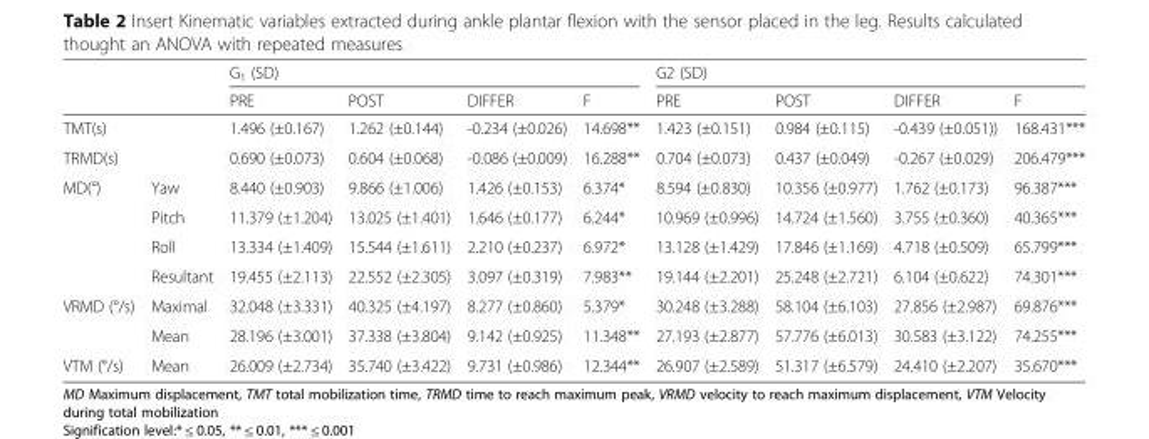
<table><thead><tr><td rowspan="2"></td><td rowspan="2"></td><td colspan="4">G<sub>1</sub> (SD)</td><td colspan="4">G2 (SD)</td></tr><tr><td>PRE</td><td>POST</td><td>DIFFER</td><td>F</td><td>PRE</td><td>POST</td><td>DIFFER</td><td>F</td></tr></thead><tbody><tr><td colspan="2">TMT(s)</td><td>1.496 (±0.167)</td><td>1.262 (±0.144)</td><td>-0.234 (±0.026)</td><td>14.698**</td><td>1.423 (±0.151)</td><td>0.984 (±0.115)</td><td>-0.439 (±0.051))</td><td>168.431***</td></tr><tr><td colspan="2">TRMD(s)</td><td>0.690 (±0.073)</td><td>0.604 (±0.068)</td><td>-0.086 (±0.009)</td><td>16.288**</td><td>0.704 (±0.073)</td><td>0.437 (±0.049)</td><td>-0.267 (±0.029)</td><td>206.479***</td></tr><tr><td rowspan="4">MD(°)</td><td>Yaw</td><td>8.440 (±0.903)</td><td>9.866 (±1.006)</td><td>1.426 (±0.153)</td><td>6.374*</td><td>8.594 (±0.830)</td><td>10.356 (±0.977)</td><td>1.762 (±0.173)</td><td>96.387***</td></tr><tr><td>Pitch</td><td>11.379 (±1.204)</td><td>13.025 (±1.401)</td><td>1.646 (±0.177)</td><td>6.244*</td><td>10.969 (±0.996)</td><td>14.724 (±1.560)</td><td>3.755 (±0.360)</td><td>40.365***</td></tr><tr><td>Roll</td><td>13.334 (±1.409)</td><td>15.544 (±1.611)</td><td>2.210 (±0.237)</td><td>6.972*</td><td>13.128 (±1.429)</td><td>17.846 (±1.169)</td><td>4.718 (±0.509)</td><td>65.799***</td></tr><tr><td>Resultant</td><td>19.455 (±2.113)</td><td>22.552 (±2.305)</td><td>3.097 (±0.319)</td><td>7.983**</td><td>19.144 (±2.201)</td><td>25.248 (±2.721)</td><td>6.104 (±0.622)</td><td>74.301***</td></tr><tr><td rowspan="2">VRMD (°/s)</td><td>Maximal</td><td>32.048 (±3.331)</td><td>40.325 (±4.197)</td><td>8.277 (±0.860)</td><td>5.379*</td><td>30.248 (±3.288)</td><td>58.104 (±6.103)</td><td>27.856 (±2.987)</td><td>69.876***</td></tr><tr><td>Mean</td><td>28.196 (±3.001)</td><td>37.338 (±3.804)</td><td>9.142 (±0.925)</td><td>11.348**</td><td>27.193 (±2.877)</td><td>57.776 (±6.013)</td><td>30.583 (±3.122)</td><td>74.255***</td></tr><tr><td>VTM (°/s)</td><td>Mean</td><td>26.009 (±2.734)</td><td>35.740 (±3.422)</td><td>9.731 (±0.986)</td><td>12.344**</td><td>26.907 (±2.589)</td><td>51.317 (±6.579)</td><td>24.410 (±2.207)</td><td>35.670***</td></tr></tbody></table>